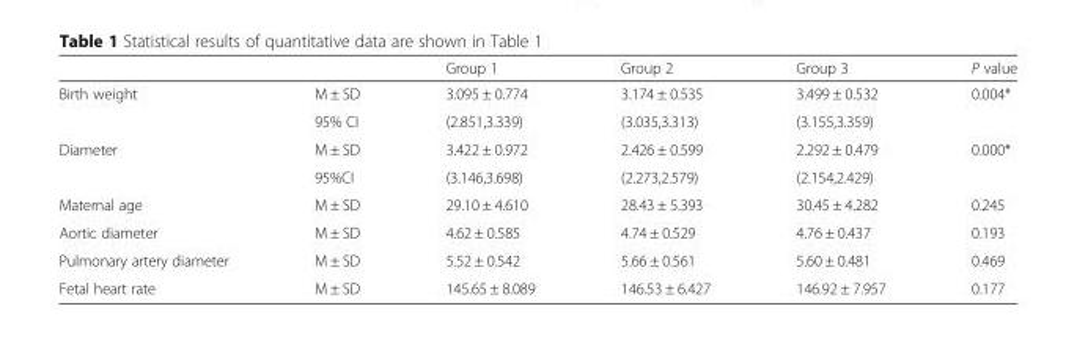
<table><thead><tr><td></td><td></td><td>Group 1</td><td>Group 2</td><td>Group 3</td><td>P value</td></tr></thead><tbody><tr><td rowspan="2">Birth weight</td><td>M ± SD</td><td>3.095 ± 0.774</td><td>3.174 ± 0.535</td><td>3.499 ± 0.532</td><td>0.004*</td></tr><tr><td>95% CI</td><td>(2.851,3.339)</td><td>(3.035,3.313)</td><td>(3.155,3.359)</td><td></td></tr><tr><td rowspan="2">Diameter</td><td>M ± SD</td><td>3.422 ± 0.972</td><td>2.426 ± 0.599</td><td>2.292 ± 0.479</td><td>0.000*</td></tr><tr><td>95%CI</td><td>(3.146,3.698)</td><td>(2.273,2.579)</td><td>(2.154,2.429)</td><td></td></tr><tr><td>Maternal age</td><td>M ± SD</td><td>29.10 ± 4.610</td><td>28.43 ± 5.393</td><td>30.45 ± 4.282</td><td>0.245</td></tr><tr><td>Aortic diameter</td><td>M ± SD</td><td>4.62 ± 0.585</td><td>4.74 ± 0.529</td><td>4.76 ± 0.437</td><td>0.193</td></tr><tr><td>Pulmonary artery diameter</td><td>M ± SD</td><td>5.52 ± 0.542</td><td>5.66 ± 0.561</td><td>5.60 ± 0.481</td><td>0.469</td></tr><tr><td>Fetal heart rate</td><td>M ± SD</td><td>145.65 ± 8.089</td><td>146.53 ± 6.427</td><td>146.92 ± 7.957</td><td>0.177</td></tr></tbody></table>